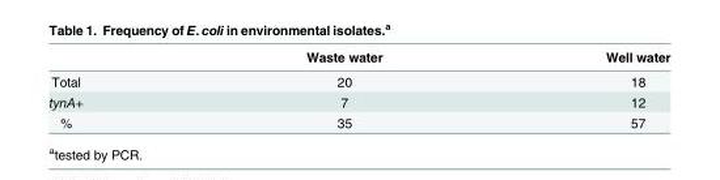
<table><thead><tr><td></td><td>Waste water</td><td>Well water</td></tr></thead><tbody><tr><td>Total</td><td>20</td><td>18</td></tr><tr><td>tynA+</td><td>7</td><td>12</td></tr><tr><td>%</td><td>35</td><td>57</td></tr></tbody></table>